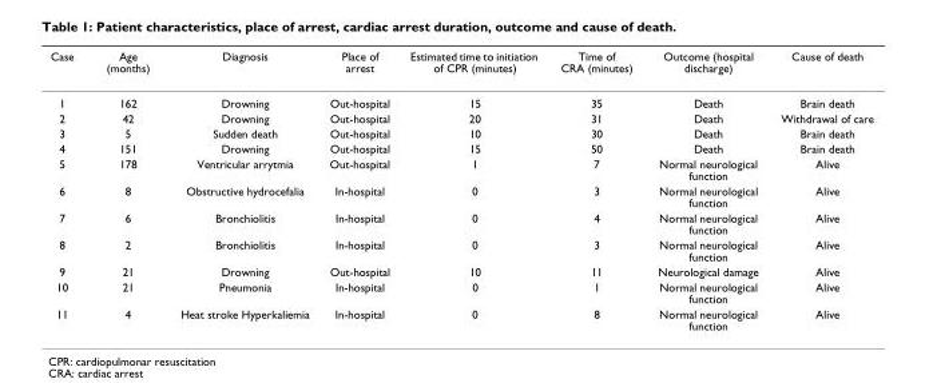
<table><thead><tr><td>Case</td><td>Age (months)</td><td>Diagnosis</td><td>Place of arrest</td><td>Estimated time to initiation of CPR (minutes)</td><td>Time of CRA (minutes)</td><td>Outcome (hospital discharge)</td><td>Cause of death</td></tr></thead><tbody><tr><td>1</td><td>162</td><td>Drowning</td><td>Out-hospital</td><td>15</td><td>35</td><td>Death</td><td>Brain death</td></tr><tr><td>2</td><td>42</td><td>Drowning</td><td>Out-hospital</td><td>20</td><td>31</td><td>Death</td><td>Withdrawal of care</td></tr><tr><td>3</td><td>5</td><td>Sudden death</td><td>Out-hospital</td><td>10</td><td>30</td><td>Death</td><td>Brain death</td></tr><tr><td>4</td><td>151</td><td>Drowning</td><td>Out-hospital</td><td>15</td><td>50</td><td>Death</td><td>Brain death</td></tr><tr><td>5</td><td>178</td><td>Ventricular arrytmia</td><td>Out-hospital</td><td>1</td><td>7</td><td>Normal neurological function</td><td>Alive</td></tr><tr><td>6</td><td>8</td><td>Obstructive hydrocefalia</td><td>In-hospital</td><td>0</td><td>3</td><td>Normal neurological function</td><td>Alive</td></tr><tr><td>7</td><td>6</td><td>Bronchiolitis</td><td>In-hospital</td><td>0</td><td>4</td><td>Normal neurological function</td><td>Alive</td></tr><tr><td>8</td><td>2</td><td>Bronchiolitis</td><td>In-hospital</td><td>0</td><td>3</td><td>Normal neurological function</td><td>Alive</td></tr><tr><td>9</td><td>21</td><td>Drowning</td><td>Out-hospital</td><td>10</td><td>11</td><td>Neurological damage</td><td>Alive</td></tr><tr><td>10</td><td>21</td><td>Pneumonia</td><td>In-hospital</td><td>0</td><td>1</td><td>Normal neurological function</td><td>Alive</td></tr><tr><td>11</td><td>4</td><td>Heat stroke Hyperkaliemia</td><td>In-hospital</td><td>0</td><td>8</td><td>Normal neurological function</td><td>Alive</td></tr></tbody></table>